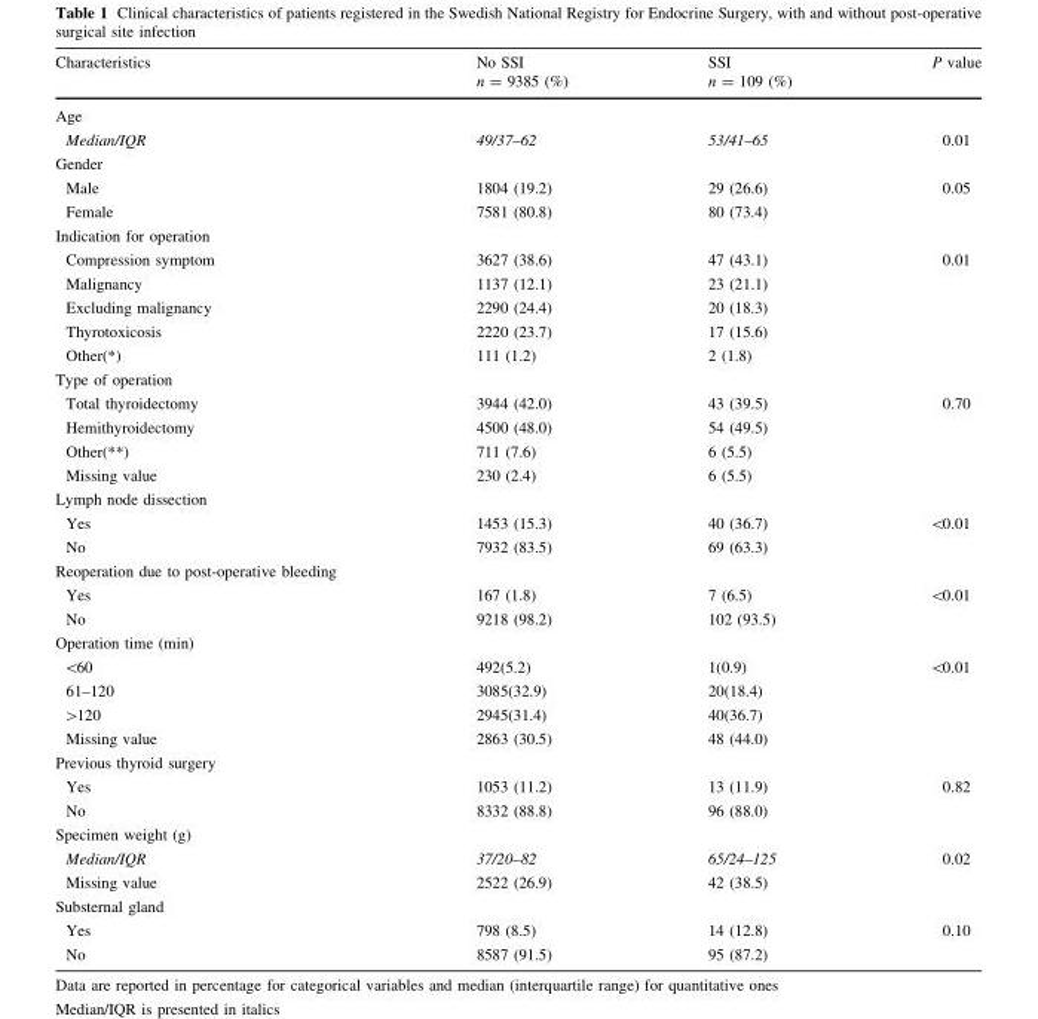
<table><thead><tr><td>Characteristics</td><td>No SSI n = 9385 (%)</td><td>SSI n = 109 (%)</td><td>P value</td></tr></thead><tbody><tr><td colspan="4">Age</td></tr><tr><td>Median/IQR</td><td>49/37–62</td><td>53/41–65</td><td>0.01</td></tr><tr><td colspan="4">Gender</td></tr><tr><td>Male</td><td>1804 (19.2)</td><td>29 (26.6)</td><td rowspan="2">0.05</td></tr><tr><td>Female</td><td>7581 (80.8)</td><td>80 (73.4)</td></tr><tr><td colspan="4">Indication for operation</td></tr><tr><td>Compression symptom</td><td>3627 (38.6)</td><td>47 (43.1)</td><td rowspan="5">0.01</td></tr><tr><td>Malignancy</td><td>1137 (12.1)</td><td>23 (21.1)</td></tr><tr><td>Excluding malignancy</td><td>2290 (24.4)</td><td>20 (18.3)</td></tr><tr><td>Thyrotoxicosis</td><td>2220 (23.7)</td><td>17 (15.6)</td></tr><tr><td>Other(*)</td><td>111 (1.2)</td><td>2 (1.8)</td></tr><tr><td colspan="4">Type of operation</td></tr><tr><td>Total thyroidectomy</td><td>3944 (42.0)</td><td>43 (39.5)</td><td rowspan="4">0.70</td></tr><tr><td>Hemithyroidectomy</td><td>4500 (48.0)</td><td>54 (49.5)</td></tr><tr><td>Other(**)</td><td>711 (7.6)</td><td>6 (5.5)</td></tr><tr><td>Missing value</td><td>230 (2.4)</td><td>6 (5.5)</td></tr><tr><td colspan="4">Lymph node dissection</td></tr><tr><td>Yes</td><td>1453 (15.3)</td><td>40 (36.7)</td><td rowspan="2">&lt;0.01</td></tr><tr><td>No</td><td>7932 (83.5)</td><td>69 (63.3)</td></tr><tr><td colspan="4">Reoperation due to post-operative bleeding</td></tr><tr><td>Yes</td><td>167 (1.8)</td><td>7 (6.5)</td><td rowspan="2">&lt;0.01</td></tr><tr><td>No</td><td>9218 (98.2)</td><td>102 (93.5)</td></tr><tr><td colspan="4">Operation time (min)</td></tr><tr><td>&lt;60</td><td>492(5.2)</td><td>1(0.9)</td><td rowspan="4">&lt;0.01</td></tr><tr><td>61–120</td><td>3085(32.9)</td><td>20(18.4)</td></tr><tr><td>&gt;120</td><td>2945(31.4)</td><td>40(36.7)</td></tr><tr><td>Missing value</td><td>2863 (30.5)</td><td>48 (44.0)</td></tr><tr><td colspan="4">Previous thyroid surgery</td></tr><tr><td>Yes</td><td>1053 (11.2)</td><td>13 (11.9)</td><td rowspan="2">0.82</td></tr><tr><td>No</td><td>8332 (88.8)</td><td>96 (88.0)</td></tr><tr><td colspan="4">Specimen weight (g)</td></tr><tr><td>Median/IQR</td><td>37/20–82</td><td>65/24–125</td><td rowspan="2">0.02</td></tr><tr><td>Missing value</td><td>2522 (26.9)</td><td>42 (38.5)</td></tr><tr><td colspan="4">Substernal gland</td></tr><tr><td>Yes</td><td>798 (8.5)</td><td>14 (12.8)</td><td rowspan="2">0.10</td></tr><tr><td>No</td><td>8587 (91.5)</td><td>95 (87.2)</td></tr></tbody></table>